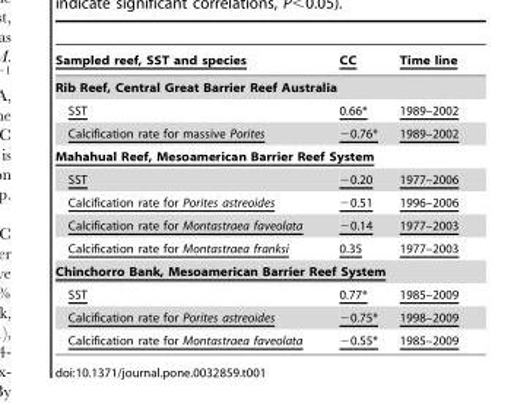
<table><thead><tr><td>Sampled reef, SST and species</td><td>CC</td><td>Time line</td></tr></thead><tbody><tr><td colspan="3">Rib Reef, Central Great Barrier Reef Australia</td></tr><tr><td>SST</td><td>0.66*</td><td>1989–2002</td></tr><tr><td>Calcification rate for massive Porites</td><td>−0.76*</td><td>1989–2002</td></tr><tr><td colspan="3">Mahahual Reef, Mesoamerican Barrier Reef System</td></tr><tr><td>SST</td><td>−0.20</td><td>1977–2006</td></tr><tr><td>Calcification rate for Porites astreoides</td><td>−0.51</td><td>1996–2006</td></tr><tr><td>Calcification rate for Montastraea faveolata</td><td>−0.14</td><td>1977–2003</td></tr><tr><td>Calcification rate for Montastraea franksi</td><td>0.35</td><td>1977–2003</td></tr><tr><td colspan="3">Chinchorro Bank, Mesoamerican Barrier Reef System</td></tr><tr><td>SST</td><td>0.77*</td><td>1985–2009</td></tr><tr><td>Calcification rate for Porites astreoides</td><td>−0.75*</td><td>1998–2009</td></tr><tr><td>Calcification rate for Montastraea faveolata</td><td>−0.55*</td><td>1985–2009</td></tr></tbody></table>